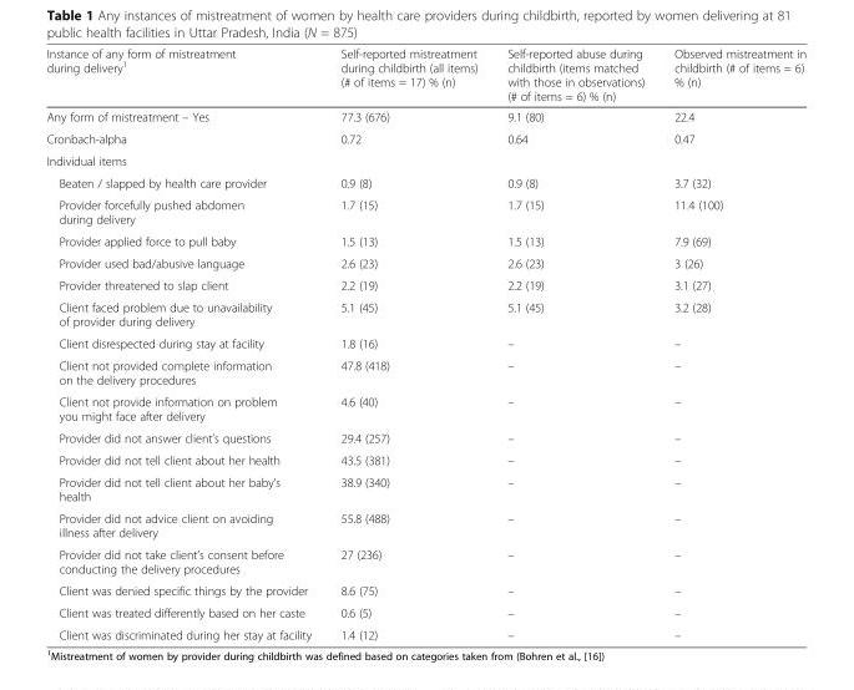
<table><thead><tr><td>Instance of any form of mistreatment during delivery<sup>1</sup></td><td>Self-reported mistreatment during childbirth (all items) (# of items = 17) % (n)</td><td>Self-reported abuse during childbirth (items matched with those in observations) (# of items = 6) % (n)</td><td>Observed mistreatment in childbirth (# of items = 6) % (n)</td></tr></thead><tbody><tr><td>Any form of mistreatment – Yes</td><td>77.3 (676)</td><td>9.1 (80)</td><td>22.4</td></tr><tr><td>Cronbach-alpha</td><td>0.72</td><td>0.64</td><td>0.47</td></tr><tr><td colspan="4">Individual items</td></tr><tr><td>Beaten / slapped by health care provider</td><td>0.9 (8)</td><td>0.9 (8)</td><td>3.7 (32)</td></tr><tr><td>Provider forcefully pushed abdomen during delivery</td><td>1.7 (15)</td><td>1.7 (15)</td><td>11.4 (100)</td></tr><tr><td>Provider applied force to pull baby</td><td>1.5 (13)</td><td>1.5 (13)</td><td>7.9 (69)</td></tr><tr><td>Provider used bad/abusive language</td><td>2.6 (23)</td><td>2.6 (23)</td><td>3 (26)</td></tr><tr><td>Provider threatened to slap client</td><td>2.2 (19)</td><td>2.2 (19)</td><td>3.1 (27)</td></tr><tr><td>Client faced problem due to unavailability of provider during delivery</td><td>5.1 (45)</td><td>5.1 (45)</td><td>3.2 (28)</td></tr><tr><td>Client disrespected during stay at facility</td><td>1.8 (16)</td><td>–</td><td>–</td></tr><tr><td>Client not provided complete information on the delivery procedures</td><td>47.8 (418)</td><td>–</td><td>–</td></tr><tr><td>Client not provide information on problem you might face after delivery</td><td>4.6 (40)</td><td>–</td><td>–</td></tr><tr><td>Provider did not answer client’s questions</td><td>29.4 (257)</td><td>–</td><td>–</td></tr><tr><td>Provider did not tell client about her health</td><td>43.5 (381)</td><td>–</td><td>–</td></tr><tr><td>Provider did not tell client about her baby’s health</td><td>38.9 (340)</td><td>–</td><td>–</td></tr><tr><td>Provider did not advice client on avoiding illness after delivery</td><td>55.8 (488)</td><td>–</td><td>–</td></tr><tr><td>Provider did not take client’s consent before conducting the delivery procedures</td><td>27 (236)</td><td>–</td><td>–</td></tr><tr><td>Client was denied specific things by the provider</td><td>8.6 (75)</td><td>–</td><td>–</td></tr><tr><td>Client was treated differently based on her caste</td><td>0.6 (5)</td><td>–</td><td>–</td></tr><tr><td>Client was discriminated during her stay at facility</td><td>1.4 (12)</td><td>–</td><td>–</td></tr></tbody></table>